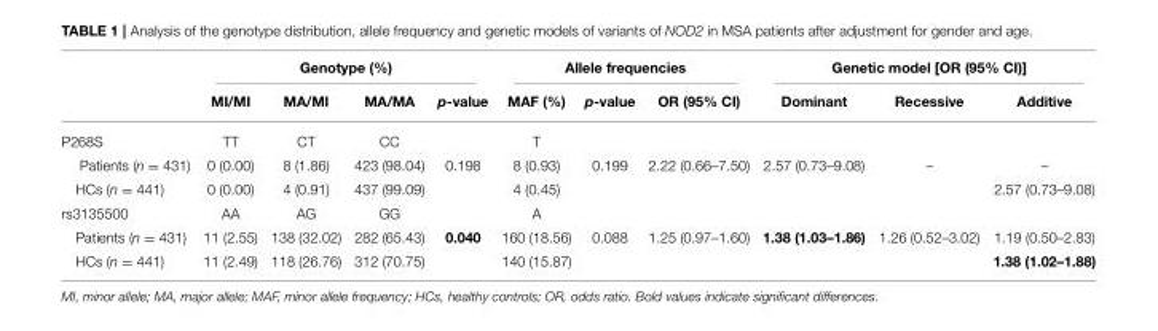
<table><thead><tr><td rowspan="2"></td><td colspan="4">Genotype (%)</td><td colspan="3">Allele frequencies</td><td colspan="3">Genetic model [OR (95% CI)]</td></tr><tr><td>MI/MI</td><td>MA/MI</td><td>MA/MA</td><td>p-value</td><td>MAF (%)</td><td>p-value</td><td>OR (95% CI)</td><td>Dominant</td><td>Recessive</td><td>Additive</td></tr></thead><tbody><tr><td>P268S</td><td>TT</td><td>CT</td><td>CC</td><td></td><td>T</td><td></td><td></td><td></td><td></td><td></td></tr><tr><td>Patients (n = 431)</td><td>0 (0.00)</td><td>8 (1.86)</td><td>423 (98.04)</td><td>0.198</td><td>8 (0.93)</td><td>0.199</td><td>2.22 (0.66–7.50)</td><td>2.57 (0.73–9.08)</td><td>–</td><td>–</td></tr><tr><td>HCs (n = 441)</td><td>0 (0.00)</td><td>4 (0.91)</td><td>437 (99.09)</td><td></td><td>4 (0.45)</td><td></td><td></td><td></td><td></td><td>2.57 (0.73–9.08)</td></tr><tr><td>rs3135500</td><td>AA</td><td>AG</td><td>GG</td><td></td><td>A</td><td></td><td></td><td></td><td></td><td></td></tr><tr><td>Patients (n = 431)</td><td>11 (2.55)</td><td>138 (32.02)</td><td>282 (65.43)</td><td>0.040</td><td>160 (18.56)</td><td>0.088</td><td>1.25 (0.97–1.60)</td><td>1.38 (1.03–1.86)</td><td>1.26 (0.52–3.02)</td><td>1.19 (0.50–2.83)</td></tr><tr><td>HCs (n = 441)</td><td>11 (2.49)</td><td>118 (26.76)</td><td>312 (70.75)</td><td></td><td>140 (15.87)</td><td></td><td></td><td></td><td></td><td>1.38 (1.02–1.88)</td></tr></tbody></table>